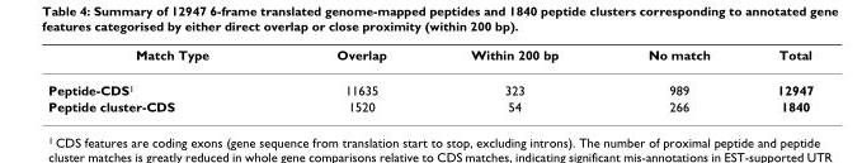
<table><thead><tr><td>Match Type</td><td>Overlap</td><td>Within 200 bp</td><td>No match</td><td>Total</td></tr></thead><tbody><tr><td>Peptide-CDS<sup>1</sup></td><td>11635</td><td>323</td><td>989</td><td>12947</td></tr><tr><td>Peptide cluster-CDS</td><td>1520</td><td>54</td><td>266</td><td>1840</td></tr></tbody></table>